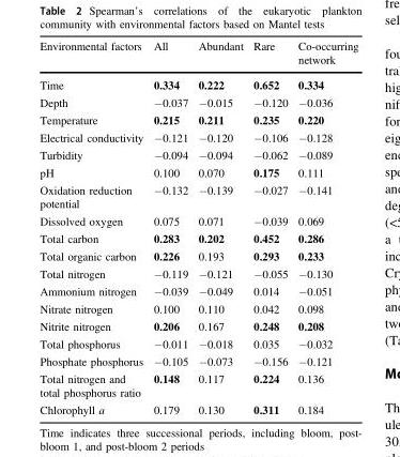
<table><thead><tr><td>Environmental factors</td><td>All</td><td>Abundant</td><td>Rare</td><td>Co-occurring network</td></tr></thead><tbody><tr><td>Time</td><td>0.334</td><td>0.222</td><td>0.652</td><td>0.334</td></tr><tr><td>Depth</td><td>−0.037</td><td>−0.015</td><td>−0.120</td><td>−0.036</td></tr><tr><td>Temperature</td><td>0.215</td><td>0.211</td><td>0.235</td><td>0.220</td></tr><tr><td>Electrical conductivity</td><td>−0.121</td><td>−0.120</td><td>−0.106</td><td>−0.128</td></tr><tr><td>Turbidity</td><td>−0.094</td><td>−0.094</td><td>−0.062</td><td>−0.089</td></tr><tr><td>pH</td><td>0.100</td><td>0.070</td><td>0.175</td><td>0.111</td></tr><tr><td>Oxidation reduction potential</td><td>−0.132</td><td>−0.139</td><td>−0.027</td><td>−0.141</td></tr><tr><td>Dissolved oxygen</td><td>0.075</td><td>0.071</td><td>−0.039</td><td>0.069</td></tr><tr><td>Total carbon</td><td>0.283</td><td>0.202</td><td>0.452</td><td>0.286</td></tr><tr><td>Total organic carbon</td><td>0.226</td><td>0.193</td><td>0.293</td><td>0.233</td></tr><tr><td>Total nitrogen</td><td>−0.119</td><td>−0.121</td><td>−0.055</td><td>−0.130</td></tr><tr><td>Ammonium nitrogen</td><td>−0.039</td><td>−0.049</td><td>0.014</td><td>−0.051</td></tr><tr><td>Nitrate nitrogen</td><td>0.100</td><td>0.110</td><td>0.042</td><td>0.098</td></tr><tr><td>Nitrite nitrogen</td><td>0.206</td><td>0.167</td><td>0.248</td><td>0.208</td></tr><tr><td>Total phosphorus</td><td>−0.011</td><td>−0.018</td><td>0.035</td><td>−0.032</td></tr><tr><td>Phosphate phosphorus</td><td>−0.105</td><td>−0.073</td><td>−0.156</td><td>−0.121</td></tr><tr><td>Total nitrogen and total phosphorus ratio</td><td>0.148</td><td>0.117</td><td>0.224</td><td>0.136</td></tr><tr><td>Chlorophyll a</td><td>0.179</td><td>0.130</td><td>0.311</td><td>0.184</td></tr></tbody></table>